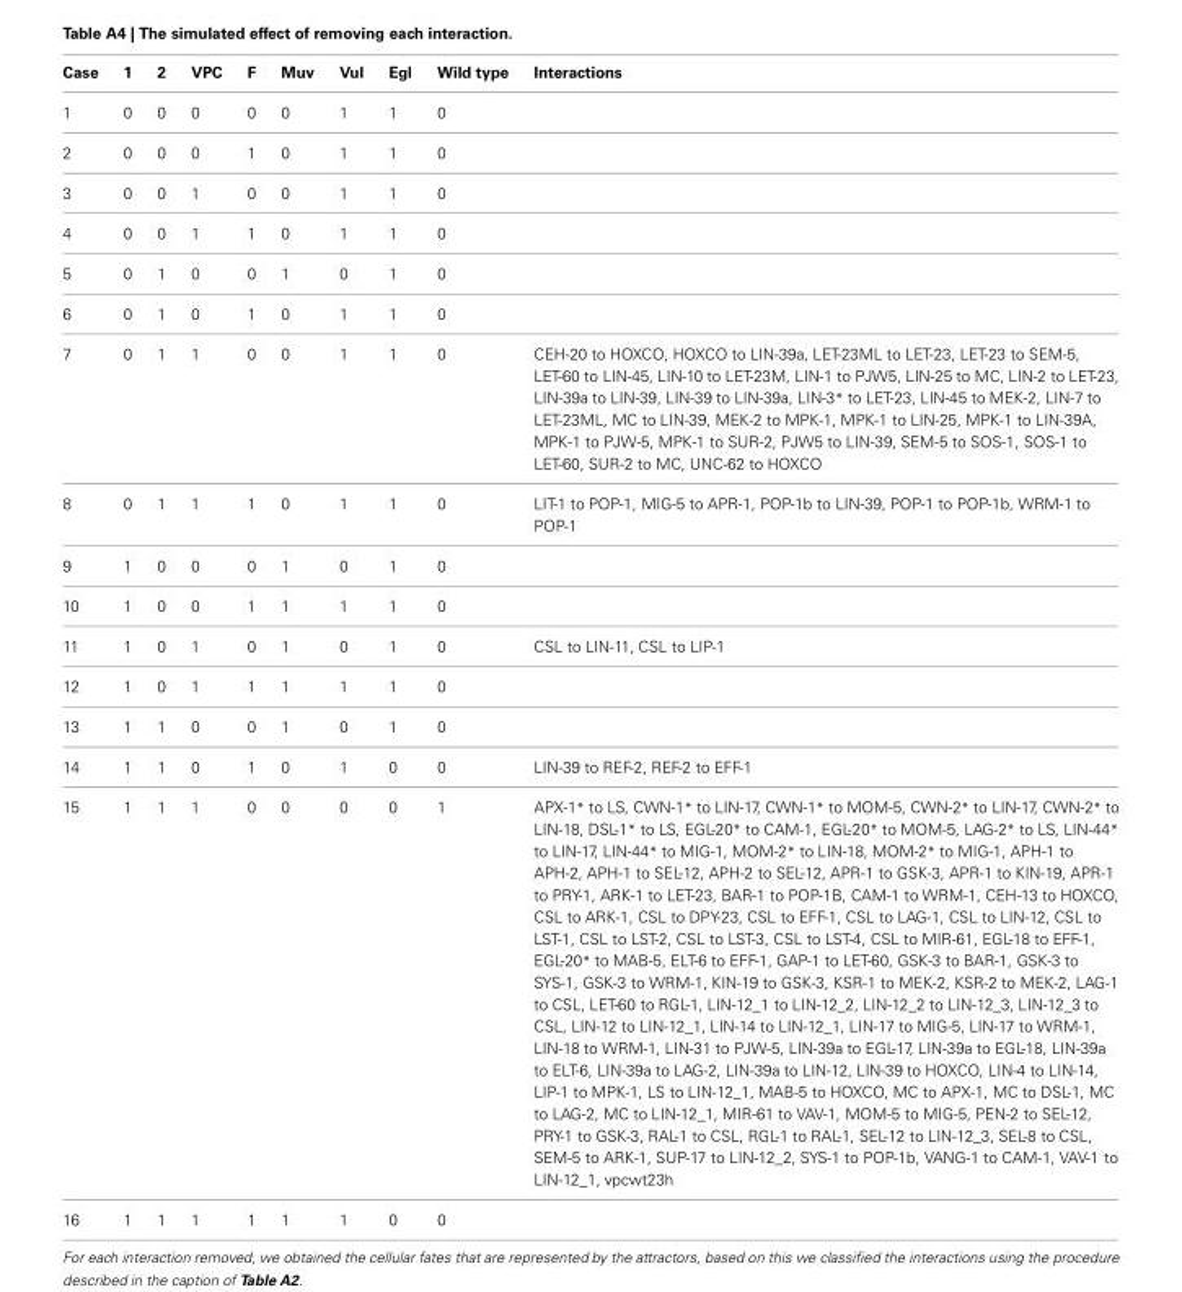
<table><thead><tr><td>Case</td><td>1</td><td>2</td><td>VPC</td><td>F</td><td>Muv</td><td>Vul</td><td>Egl</td><td>Wild type</td><td>Interactions</td></tr></thead><tbody><tr><td>1</td><td>0</td><td>0</td><td>0</td><td>0</td><td>0</td><td>1</td><td>1</td><td>0</td><td></td></tr><tr><td>2</td><td>0</td><td>0</td><td>0</td><td>1</td><td>0</td><td>1</td><td>1</td><td>0</td><td></td></tr><tr><td>3</td><td>0</td><td>0</td><td>1</td><td>0</td><td>0</td><td>1</td><td>1</td><td>0</td><td></td></tr><tr><td>4</td><td>0</td><td>0</td><td>1</td><td>1</td><td>0</td><td>1</td><td>1</td><td>0</td><td></td></tr><tr><td>5</td><td>0</td><td>1</td><td>0</td><td>0</td><td>1</td><td>0</td><td>1</td><td>0</td><td></td></tr><tr><td>6</td><td>0</td><td>1</td><td>0</td><td>1</td><td>0</td><td>1</td><td>1</td><td>0</td><td></td></tr><tr><td>7</td><td>0</td><td>1</td><td>1</td><td>0</td><td>0</td><td>1</td><td>1</td><td>0</td><td>CEH-20 to HOXCO, HOXCO to LIN-39a, LET-23ML to LET-23, LET-23 to SEM-5, LET-60 to LIN-45, LIN-10 to LET-23M, LIN-1 to PJW5, LIN-25 to MC, LIN-2 to LET-23, LIN-39a to LIN-39, LIN-39 to LIN-39a, LIN-3* to LET-23, LIN-45 to MEK-2, LIN-7 to LET-23ML, MC to LIN-39, MEK-2 to MPK-1, MPK-1 to LIN-25, MPK-1 to LIN-39A, MPK-1 to PJW-5, MPK-1 to SUR-2, PJW5 to LIN-39, SEM-5 to SOS-1, SOS-1 to LET-60, SUR-2 to MC, UNC-62 to HOXCO</td></tr><tr><td>8</td><td>0</td><td>1</td><td>1</td><td>1</td><td>0</td><td>1</td><td>1</td><td>0</td><td>LIT-1 to POP-1, MIG-5 to APR-1, POP-1b to LIN-39, POP-1 to POP-1b, WRM-1 to POP-1</td></tr><tr><td>9</td><td>1</td><td>0</td><td>0</td><td>0</td><td>1</td><td>0</td><td>1</td><td>0</td><td></td></tr><tr><td>10</td><td>1</td><td>0</td><td>0</td><td>1</td><td>1</td><td>1</td><td>1</td><td>0</td><td></td></tr><tr><td>11</td><td>1</td><td>0</td><td>1</td><td>0</td><td>1</td><td>0</td><td>1</td><td>0</td><td>CSL to LIN-11, CSL to LIP-1</td></tr><tr><td>12</td><td>1</td><td>0</td><td>1</td><td>1</td><td>1</td><td>1</td><td>1</td><td>0</td><td></td></tr><tr><td>13</td><td>1</td><td>1</td><td>0</td><td>0</td><td>1</td><td>0</td><td>1</td><td>0</td><td></td></tr><tr><td>14</td><td>1</td><td>1</td><td>0</td><td>1</td><td>0</td><td>1</td><td>0</td><td>0</td><td>LIN-39 to REF-2, REF-2 to EFF-1</td></tr><tr><td>15</td><td>1</td><td>1</td><td>1</td><td>0</td><td>0</td><td>0</td><td>0</td><td>1</td><td>APX-1* to LS, CWN-1* to LIN-17, CWN-1* to MOM-5, CWN-2* to LIN-17, CWN-2* to LIN-18, DSL-1* to LS, EGL-20* to CAM-1, EGL-20* to MOM-5, LAG-2* to LS, LIN-44* to LIN-17, LIN-44* to MIG-1, MOM-2* to LIN-18, MOM-2* to MIG-1, APH-1 to APH-2, APH-1 to SEL-12, APH-2 to SEL-12, APR-1 to GSK-3, APR-1 to KIN-19, APR-1 to PRY-1, ARK-1 to LET-23, BAR-1 to POP-1B, CAM-1 to WRM-1, CEH-13 to HOXCO, CSL to ARK-1, CSL to DPY-23, CSL to EFF-1, CSL to LAG-1, CSL to LIN-12, CSL to LST-1, CSL to LST-2, CSL to LST-3, CSL to LST-4, CSL to MIR-61, EGL-18 to EFF-1, EGL-20* to MAB-5, ELT-6 to EFF-1, GAP-1 to LET-60, GSK-3 to BAR-1, GSK-3 to SYS-1, GSK-3 to WRM-1, KIN-19 to GSK-3, KSR-1 to MEK-2, KSR-2 to MEK-2, LAG-1 to CSL, LET-60 to RGL-1, LIN-12_1 to LIN-12_2, LIN-12_2 to LIN-12_3, LIN-12_3 to CSL, LIN-12 to LIN-12_1, LIN-14 to LIN-12_1, LIN-17 to MIG-5, LIN-17 to WRM-1, LIN-18 to WRM-1, LIN-31 to PJW-5, LIN-39a to EGL-17, LIN-39a to EGL-18, LIN-39a to ELT-6, LIN-39a to LAG-2, LIN-39a to LIN-12, LIN-39 to HOXCO, LIN-4 to LIN-14, LIP-1 to MPK-1, LS to LIN-12_1, MAB-5 to HOXCO, MC to APX-1, MC to DSL-1, MC to LAG-2, MC to LIN-12_1, MIR-61 to VAV-1, MOM-5 to MIG-5, PEN-2 to SEL-12, PRY-1 to GSK-3, RAL-1 to CSL, RGL-1 to RAL-1, SEL-12 to LIN-12_3, SEL-8 to CSL, SEM-5 to ARK-1, SUP-17 to LIN-12_2, SYS-1 to POP-1b, VANG-1 to CAM-1, VAV-1 to LIN-12_1, vpcwt23h</td></tr><tr><td>16</td><td>1</td><td>1</td><td>1</td><td>1</td><td>1</td><td>1</td><td>0</td><td>0</td><td></td></tr></tbody></table>